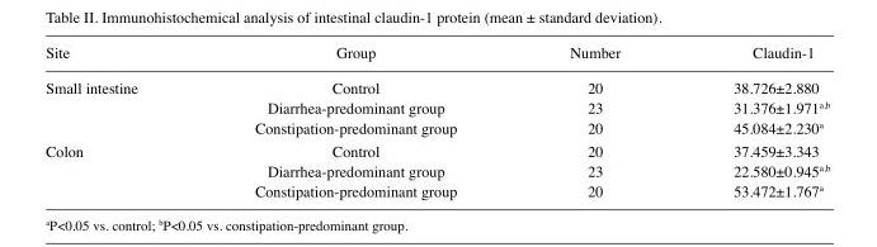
<table><thead><tr><td>Site</td><td>Group</td><td>Number</td><td>Claudin-1</td></tr></thead><tbody><tr><td rowspan="3">Small intestine</td><td>Control</td><td>20</td><td>38.726±2.880</td></tr><tr><td>Diarrhea-predominant group</td><td>23</td><td>31.376±1.971<sup>a</sup>,<sup>b</sup></td></tr><tr><td>Constipation-predominant group</td><td>20</td><td>45.084±2.230<sup>a</sup></td></tr><tr><td rowspan="3">Colon</td><td>Control</td><td>20</td><td>37.459±3.343</td></tr><tr><td>Diarrhea-predominant group</td><td>23</td><td>22.580±0.945<sup>a</sup>,<sup>b</sup></td></tr><tr><td>Constipation-predominant group</td><td>20</td><td>53.472±1.767<sup>a</sup></td></tr></tbody></table>